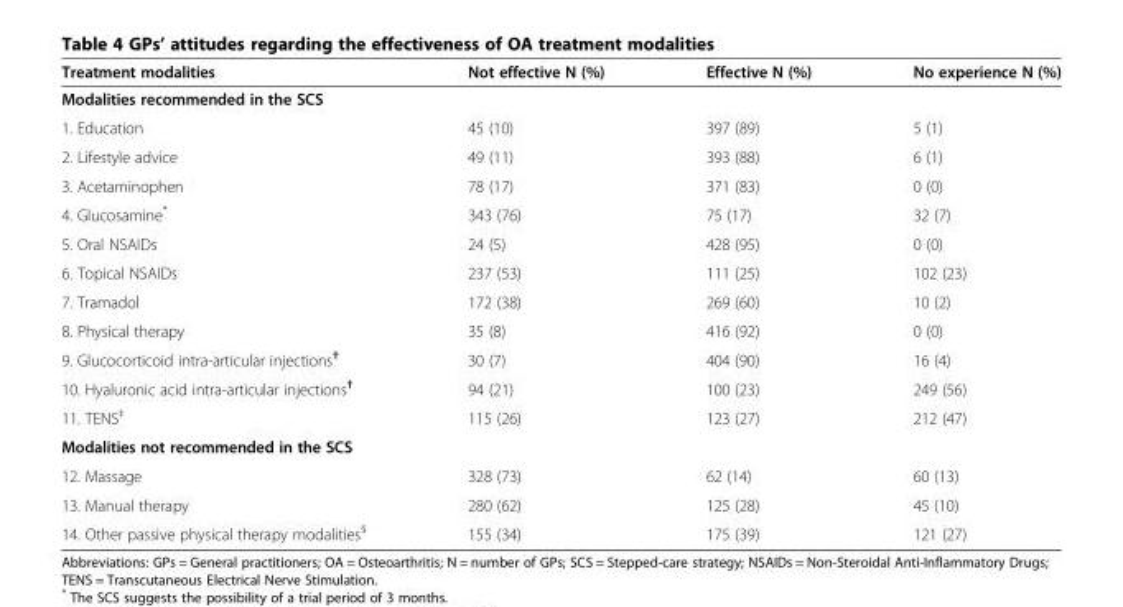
<table><thead><tr><td>Treatment modalities</td><td>Not effective N (%)</td><td>Effective N (%)</td><td>No experience N (%)</td></tr></thead><tbody><tr><td colspan="4">Modalities recommended in the SCS</td></tr><tr><td>1. Education</td><td>45 (10)</td><td>397 (89)</td><td>5 (1)</td></tr><tr><td>2. Lifestyle advice</td><td>49 (11)</td><td>393 (88)</td><td>6 (1)</td></tr><tr><td>3. Acetaminophen</td><td>78 (17)</td><td>371 (83)</td><td>0 (0)</td></tr><tr><td>4. Glucosamine*</td><td>343 (76)</td><td>75 (17)</td><td>32 (7)</td></tr><tr><td>5. Oral NSAIDs</td><td>24 (5)</td><td>428 (95)</td><td>0 (0)</td></tr><tr><td>6. Topical NSAIDs</td><td>237 (53)</td><td>111 (25)</td><td>102 (23)</td></tr><tr><td>7. Tramadol</td><td>172 (38)</td><td>269 (60)</td><td>10 (2)</td></tr><tr><td>8. Physical therapy</td><td>35 (8)</td><td>416 (92)</td><td>0 (0)</td></tr><tr><td>9. Glucocorticoid intra-articular injections<sup>†</sup></td><td>30 (7)</td><td>404 (90)</td><td>16 (4)</td></tr><tr><td>10. Hyaluronic acid intra-articular injections<sup>†</sup></td><td>94 (21)</td><td>100 (23)</td><td>249 (56)</td></tr><tr><td>11. TENS<sup>‡</sup></td><td>115 (26)</td><td>123 (27)</td><td>212 (47)</td></tr><tr><td colspan="4">Modalities not recommended in the SCS</td></tr><tr><td>12. Massage</td><td>328 (73)</td><td>62 (14)</td><td>60 (13)</td></tr><tr><td>13. Manual therapy</td><td>280 (62)</td><td>125 (28)</td><td>45 (10)</td></tr><tr><td>14. Other passive physical therapy modalities<sup>§</sup></td><td>155 (34)</td><td>175 (39)</td><td>121 (27)</td></tr></tbody></table>